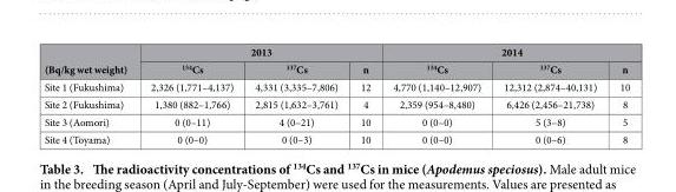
<table><thead><tr><td rowspan="2">(Bq/kg wet weight)</td><td colspan="3">2013</td><td colspan="3">2014</td></tr><tr><td><sup>134</sup>Cs</td><td><sup>137</sup>Cs</td><td>n</td><td><sup>134</sup>Cs</td><td><sup>137</sup>Cs</td><td>n</td></tr></thead><tbody><tr><td>Site 1 (Fukushima)</td><td>2,326 (1,771–4,137)</td><td>4,331 (3,335–7,806)</td><td>12</td><td>4,770 (1,140–12,907)</td><td>12,312 (2,874–40,131)</td><td>10</td></tr><tr><td>Site 2 (Fukushima)</td><td>1,380 (882–1,766)</td><td>2,815 (1,632–3,761)</td><td>4</td><td>2,359 (954–8,480)</td><td>6,426 (2,456–21,738)</td><td>8</td></tr><tr><td>Site 3 (Aomori)</td><td>0 (0–11)</td><td>4 (0–21)</td><td>10</td><td>0 (0–0)</td><td>5 (3–8)</td><td>5</td></tr><tr><td>Site 4 (Toyama)</td><td>0 (0–0)</td><td>0 (0–3)</td><td>10</td><td>0 (0–0)</td><td>0 (0–6)</td><td>8</td></tr></tbody></table>